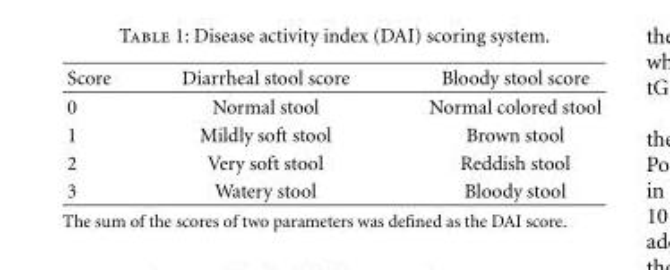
<table><thead><tr><td>Score</td><td>Diarrheal stool score</td><td>Bloody stool score</td></tr></thead><tbody><tr><td>0</td><td>Normal stool</td><td>Normal colored stool</td></tr><tr><td>1</td><td>Mildly soft stool</td><td>Brown stool</td></tr><tr><td>2</td><td>Very soft stool</td><td>Reddish stool</td></tr><tr><td>3</td><td>Watery stool</td><td>Bloody stool</td></tr></tbody></table>